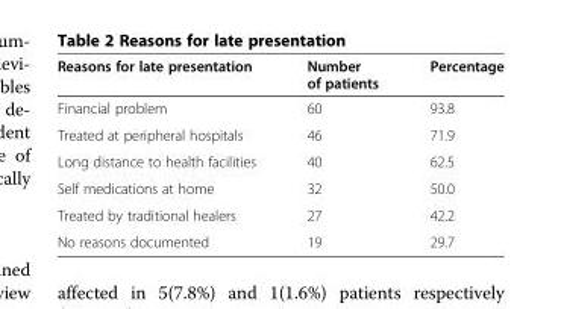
<table><thead><tr><td>Reasons for late presentation</td><td>Number of patients</td><td>Percentage</td></tr></thead><tbody><tr><td>Financial problem</td><td>60</td><td>93.8</td></tr><tr><td>Treated at peripheral hospitals</td><td>46</td><td>71.9</td></tr><tr><td>Long distance to health facilities</td><td>40</td><td>62.5</td></tr><tr><td>Self medications at home</td><td>32</td><td>50.0</td></tr><tr><td>Treated by traditional healers</td><td>27</td><td>42.2</td></tr><tr><td>No reasons documented</td><td>19</td><td>29.7</td></tr></tbody></table>